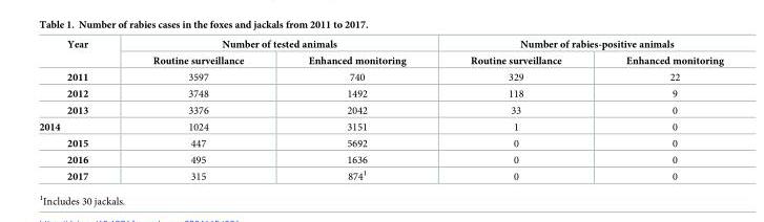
<table><thead><tr><td rowspan="2">Year</td><td colspan="2">Number of tested animals</td><td colspan="2">Number of rabies-positive animals</td></tr><tr><td>Routine surveillance</td><td>Enhanced monitoring</td><td>Routine surveillance</td><td>Enhanced monitoring</td></tr></thead><tbody><tr><td>2011</td><td>3597</td><td>740</td><td>329</td><td>22</td></tr><tr><td>2012</td><td>3748</td><td>1492</td><td>118</td><td>9</td></tr><tr><td>2013</td><td>3376</td><td>2042</td><td>33</td><td>0</td></tr><tr><td>2014</td><td>1024</td><td>3151</td><td>1</td><td>0</td></tr><tr><td>2015</td><td>447</td><td>5692</td><td>0</td><td>0</td></tr><tr><td>2016</td><td>495</td><td>1636</td><td>0</td><td>0</td></tr><tr><td>2017</td><td>315</td><td>874<sup>1</sup></td><td>0</td><td>0</td></tr></tbody></table>